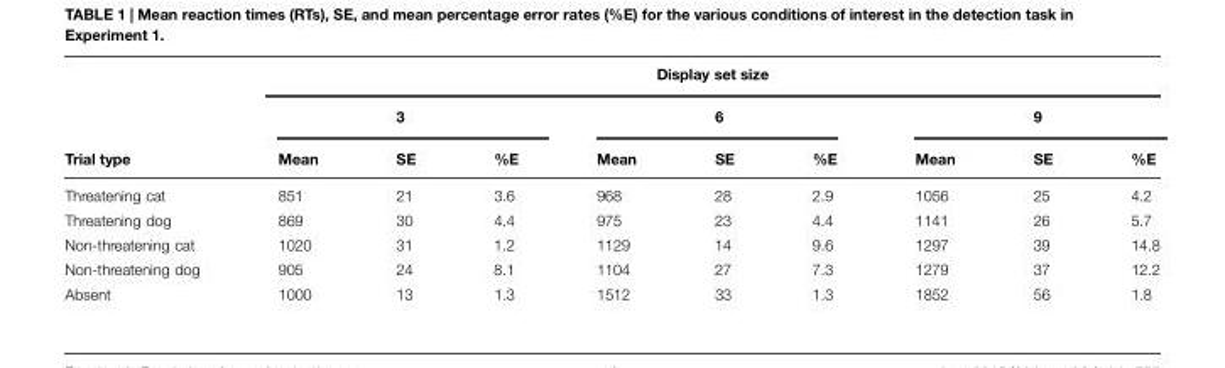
<table><thead><tr><td rowspan="3">Trial type</td><td colspan="9">Display set size</td></tr><tr><td colspan="3">3</td><td colspan="3">6</td><td colspan="3">9</td></tr><tr><td>Mean</td><td>SE</td><td>%E</td><td>Mean</td><td>SE</td><td>%E</td><td>Mean</td><td>SE</td><td>%E</td></tr></thead><tbody><tr><td>Threatening cat</td><td>851</td><td>21</td><td>3.6</td><td>968</td><td>28</td><td>2.9</td><td>1056</td><td>25</td><td>4.2</td></tr><tr><td>Threatening dog</td><td>869</td><td>30</td><td>4.4</td><td>975</td><td>23</td><td>4.4</td><td>1141</td><td>26</td><td>5.7</td></tr><tr><td>Non-threatening cat</td><td>1020</td><td>31</td><td>1.2</td><td>1129</td><td>14</td><td>9.6</td><td>1297</td><td>39</td><td>14.8</td></tr><tr><td>Non-threatening dog</td><td>905</td><td>24</td><td>8.1</td><td>1104</td><td>27</td><td>7.3</td><td>1279</td><td>37</td><td>12.2</td></tr><tr><td>Absent</td><td>1000</td><td>13</td><td>1.3</td><td>1512</td><td>33</td><td>1.3</td><td>1852</td><td>56</td><td>1.8</td></tr></tbody></table>